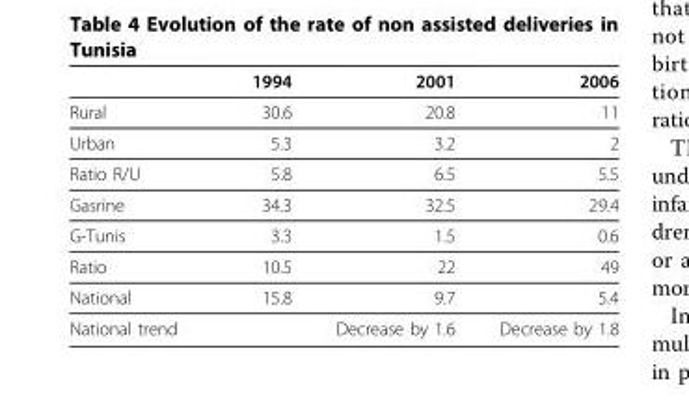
<table><thead><tr><td></td><td>1994</td><td>2001</td><td>2006</td></tr></thead><tbody><tr><td>Rural</td><td>30.6</td><td>20.8</td><td>11</td></tr><tr><td>Urban</td><td>5.3</td><td>3.2</td><td>2</td></tr><tr><td>Ratio R/U</td><td>5.8</td><td>6.5</td><td>5.5</td></tr><tr><td>Gasrine</td><td>34.3</td><td>32.5</td><td>29.4</td></tr><tr><td>G-Tunis</td><td>3.3</td><td>1.5</td><td>0.6</td></tr><tr><td>Ratio</td><td>10.5</td><td>22</td><td>49</td></tr><tr><td>National</td><td>15.8</td><td>9.7</td><td>5.4</td></tr><tr><td>National trend</td><td></td><td>Decrease by 1.6</td><td>Decrease by 1.8</td></tr></tbody></table>